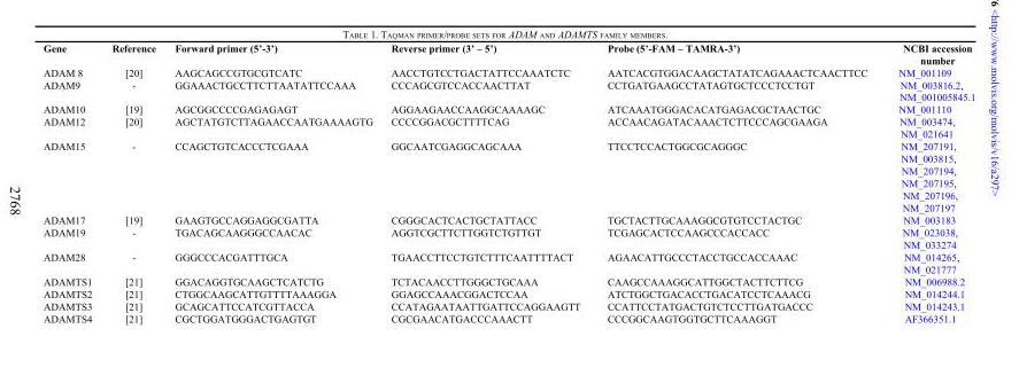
<table><thead><tr><td>Gene</td><td>Reference</td><td>Forward primer (5’-3’)</td><td>Reverse primer (3’ – 5’)</td><td>Probe (5’-FAM – TAMRA-3’)</td><td>NCBI accession number</td></tr></thead><tbody><tr><td>ADAM 8</td><td>[20]</td><td>AAGCAGCCGTGCGTCATC</td><td>AACCTGTCCTGACTATTCCAAATCTC</td><td>AATCACGTGGACAAGCTATATCAGAAACTCAACTTCC</td><td>NM_001109</td></tr><tr><td>ADAM9</td><td>-</td><td>GGAAACTGCCTTCTTAATATTCCAAA</td><td>CCCAGCGTCCACCAACTTAT</td><td>CCTGATGAAGCCTATAGTGCTCCCTCCTGT</td><td>NM_003816.2, NM_001005845.1</td></tr><tr><td>ADAM10</td><td>[19]</td><td>AGCGGCCCCGAGAGAGT</td><td>AGGAAGAACCAAGGCAAAAGC</td><td>ATCAAATGGGACACATGAGACGCTAACTGC</td><td>NM_001110</td></tr><tr><td>ADAM12</td><td>[20]</td><td>AGCTATGTCTTAGAACCAATGAAAAGTG</td><td>CCCCGGACGCTTTTCAG</td><td>ACCAACAGATACAAACTCTTCCCAGCGAAGA</td><td>NM_003474, NM_021641</td></tr><tr><td>ADAM15</td><td>-</td><td>CCAGCTGTCACCCTCGAAA</td><td>GGCAATCGAGGCAGCAAA</td><td>TTCCTCCACTGGCGCAGGGC</td><td>NM_207191, NM_003815, NM_207194, NM_207195, NM_207196, NM_207197</td></tr><tr><td>ADAM17</td><td>[19]</td><td>GAAGTGCCAGGAGGCGATTA</td><td>CGGGCACTCACTGCTATTACC</td><td>TGCTACTTGCAAAGGCGTGTCCTACTGC</td><td>NM_003183</td></tr><tr><td>ADAM19</td><td>-</td><td>TGACAGCAAGGGCCAACAC</td><td>AGGTCGCTTCTTGGTCTGTTGT</td><td>TCGAGCACTCCAAGCCCACCACC</td><td>NM_023038, NM_033274</td></tr><tr><td>ADAM28</td><td>-</td><td>GGGCCCACGATTTGCA</td><td>TGAACCTTCCTGTCTTTCAATTTTACT</td><td>AGAACATTGCCCTACCTGCCACCAAAC</td><td>NM_014265, NM_021777</td></tr><tr><td>ADAMTS1</td><td>[21]</td><td>GGACAGGTGCAAGCTCATCTG</td><td>TCTACAACCTTGGGCTGCAAA</td><td>CAAGCCAAAGGCATTGGCTACTTCTTCG</td><td>NM_006988.2</td></tr><tr><td>ADAMTS2</td><td>[21]</td><td>CTGGCAAGCATTGTTTTAAAGGA</td><td>GGAGCCAAACGGACTCCAA</td><td>ATCTGGCTGACACCTGACATCCTCAAACG</td><td>NM_014244.1</td></tr><tr><td>ADAMTS3</td><td>[21]</td><td>GCAGCATTCCATCGTTACCA</td><td>CCATAGAATAATTGATTCCAGGAAGTT</td><td>CCATTCCTATGACTGTCTCCTTGATGACCC</td><td>NM_014243.1</td></tr><tr><td>ADAMTS4</td><td>[21]</td><td>CGCTGGATGGGACTGAGTGT</td><td>CGCGAACATGACCCAAACTT</td><td>CCCGGCAAGTGGTGCTTCAAAGGT</td><td>AF366351.1</td></tr></tbody></table>